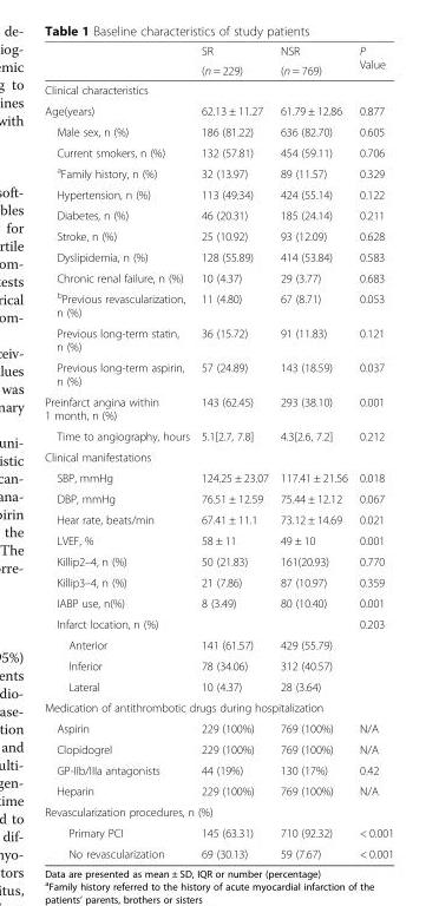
<table><thead><tr><td rowspan="2"></td><td rowspan="2">SR (n = 229)</td><td rowspan="2">NSR (n = 769)</td><td rowspan="2">P Value</td></tr><tr></tr></thead><tbody><tr><td colspan="4">Clinical characteristics</td></tr><tr><td>Age(years)</td><td>62.13 ± 11.27</td><td>61.79 ± 12.86</td><td>0.877</td></tr><tr><td>Male sex, n (%)</td><td>186 (81.22)</td><td>636 (82.70)</td><td>0.605</td></tr><tr><td>Current smokers, n (%)</td><td>132 (57.81)</td><td>454 (59.11)</td><td>0.706</td></tr><tr><td><sup>a</sup>Family history, n (%)</td><td>32 (13.97)</td><td>89 (11.57)</td><td>0.329</td></tr><tr><td>Hypertension, n (%)</td><td>113 (49.34)</td><td>424 (55.14)</td><td>0.122</td></tr><tr><td>Diabetes, n (%)</td><td>46 (20.31)</td><td>185 (24.14)</td><td>0.211</td></tr><tr><td>Stroke, n (%)</td><td>25 (10.92)</td><td>93 (12.09)</td><td>0.628</td></tr><tr><td>Dyslipidemia, n (%)</td><td>128 (55.89)</td><td>414 (53.84)</td><td>0.583</td></tr><tr><td>Chronic renal failure, n (%)</td><td>10 (4.37)</td><td>29 (3.77)</td><td>0.683</td></tr><tr><td><sup>b</sup>Previous revascularization, n (%)</td><td>11 (4.80)</td><td>67 (8.71)</td><td>0.053</td></tr><tr><td>Previous long-term statin, n (%)</td><td>36 (15.72)</td><td>91 (11.83)</td><td>0.121</td></tr><tr><td>Previous long-term aspirin, n (%)</td><td>57 (24.89)</td><td>143 (18.59)</td><td>0.037</td></tr><tr><td>Preinfarct angina within 1 month, n (%)</td><td>143 (62.45)</td><td>293 (38.10)</td><td>0.001</td></tr><tr><td>Time to angiography, hours</td><td>5.1[2.7, 7.8]</td><td>4.3[2.6, 7.2]</td><td>0.212</td></tr><tr><td colspan="4">Clinical manifestations</td></tr><tr><td>SBP, mmHg</td><td>124.25 ± 23.07</td><td>117.41 ± 21.56</td><td>0.018</td></tr><tr><td>DBP, mmHg</td><td>76.51 ± 12.59</td><td>75.44 ± 12.12</td><td>0.067</td></tr><tr><td>Hear rate, beats/min</td><td>67.41 ± 11.1</td><td>73.12 ± 14.69</td><td>0.021</td></tr><tr><td>LVEF, %</td><td>58 ± 11</td><td>49 ± 10</td><td>0.001</td></tr><tr><td>Killip2–4, n (%)</td><td>50 (21.83)</td><td>161(20.93)</td><td>0.770</td></tr><tr><td>Killip3–4, n (%)</td><td>21 (7.86)</td><td>87 (10.97)</td><td>0.359</td></tr><tr><td>IABP use, n(%)</td><td>8 (3.49)</td><td>80 (10.40)</td><td>0.001</td></tr><tr><td>Infarct location, n (%)</td><td colspan="2"></td><td>0.203</td></tr><tr><td>Anterior</td><td>141 (61.57)</td><td>429 (55.79)</td><td rowspan="3"></td></tr><tr><td>Inferior</td><td>78 (34.06)</td><td>312 (40.57)</td></tr><tr><td>Lateral</td><td>10 (4.37)</td><td>28 (3.64)</td></tr><tr><td colspan="4">Medication of antithrombotic drugs during hospitalization</td></tr><tr><td>Aspirin</td><td>229 (100%)</td><td>769 (100%)</td><td>N/A</td></tr><tr><td>Clopidogrel</td><td>229 (100%)</td><td>769 (100%)</td><td>N/A</td></tr><tr><td>GP-IIb/IIIa antagonists</td><td>44 (19%)</td><td>130 (17%)</td><td>0.42</td></tr><tr><td>Heparin</td><td>229 (100%)</td><td>769 (100%)</td><td>N/A</td></tr><tr><td colspan="4">Revascularization procedures, n (%)</td></tr><tr><td>Primary PCI</td><td>145 (63.31)</td><td>710 (92.32)</td><td>&lt; 0.001</td></tr><tr><td>No revascularization</td><td>69 (30.13)</td><td>59 (7.67)</td><td>&lt; 0.001</td></tr></tbody></table>